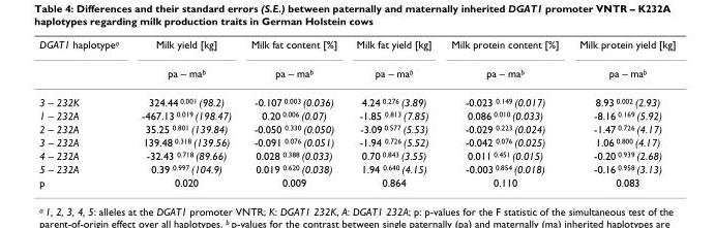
<table><thead><tr><td rowspan="2">DGAT1 haplotype<sup>a</sup></td><td rowspan="2">Milk yield [kg] pa – ma<sup>b</sup></td><td rowspan="2">Milk fat content [%] pa – ma<sup>b</sup></td><td rowspan="2">Milk fat yield [kg] pa – ma<sup>b</sup></td><td rowspan="2">Milk protein content [%] pa – ma<sup>b</sup></td><td rowspan="2">Milk protein yield [kg] pa – ma<sup>b</sup></td></tr><tr></tr></thead><tbody><tr><td>3 – 232K</td><td>324.44 <sup>0.001</sup> (98.2)</td><td>-0.107 <sup>0.003</sup> (0.036)</td><td>4.24 <sup>0.276</sup> (3.89)</td><td>-0.023 <sup>0.149</sup> (0.017)</td><td>8.93 <sup>0.002</sup> (2.93)</td></tr><tr><td>1 – 232A</td><td>-467.13 <sup>0.019</sup> (198.47)</td><td>0.20 <sup>0.006</sup> (0.07)</td><td>-1.85 <sup>0.813</sup> (7.85)</td><td>0.086 <sup>0.010</sup> (0.033)</td><td>-8.16 <sup>0.169</sup> (5.92)</td></tr><tr><td>2 – 232A</td><td>35.25 <sup>0.801</sup> (139.84)</td><td>-0.050 <sup>0.330</sup> (0.050)</td><td>-3.09 <sup>0.577</sup> (5.53)</td><td>-0.029 <sup>0.223</sup> (0.024)</td><td>-1.47 <sup>0.726</sup> (4.17)</td></tr><tr><td>3 – 232A</td><td>139.48 <sup>0.318</sup> (139.56)</td><td>-0.091 <sup>0.076</sup> (0.051)</td><td>-1.94 <sup>0.726</sup> (5.52)</td><td>-0.042 <sup>0.076</sup> (0.025)</td><td>1.06 <sup>0.800</sup> (4.17)</td></tr><tr><td>4 – 232A</td><td>-32.43 <sup>0.718</sup> (89.66)</td><td>0.028 <sup>0.388</sup> (0.033)</td><td>0.70 <sup>0.843</sup> (3.55)</td><td>0.011 <sup>0.451</sup> (0.015)</td><td>-0.20 <sup>0.939</sup> (2.68)</td></tr><tr><td>5 – 232A</td><td>0.39 <sup>0.997</sup> (104.9)</td><td>0.019 <sup>0.620</sup> (0.038)</td><td>1.94 <sup>0.640</sup> (4.15)</td><td>-0.003 <sup>0.854</sup> (0.018)</td><td>-0.16 <sup>0.958</sup> (3.13)</td></tr><tr><td>p</td><td>0.020</td><td>0.009</td><td>0.864</td><td>0.110</td><td>0.083</td></tr></tbody></table>